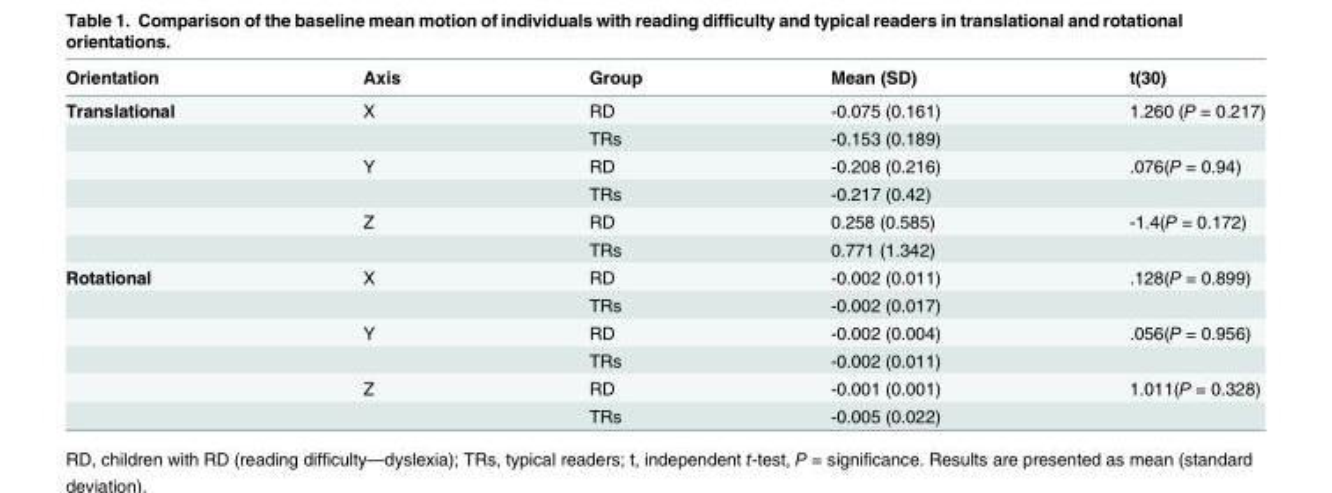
<table><thead><tr><td>Orientation</td><td>Axis</td><td>Group</td><td>Mean (SD)</td><td>t(30)</td></tr></thead><tbody><tr><td rowspan="6">Translational</td><td>X</td><td>RD</td><td>-0.075 (0.161)</td><td>1.260 (P = 0.217)</td></tr><tr><td></td><td>TRs</td><td>-0.153 (0.189)</td><td></td></tr><tr><td>Y</td><td>RD</td><td>-0.208 (0.216)</td><td>.076(P = 0.94)</td></tr><tr><td></td><td>TRs</td><td>-0.217 (0.42)</td><td></td></tr><tr><td>Z</td><td>RD</td><td>0.258 (0.585)</td><td>-1.4(P = 0.172)</td></tr><tr><td></td><td>TRs</td><td>0.771 (1.342)</td><td></td></tr><tr><td rowspan="6">Rotational</td><td>X</td><td>RD</td><td>-0.002 (0.011)</td><td>.128(P = 0.899)</td></tr><tr><td></td><td>TRs</td><td>-0.002 (0.017)</td><td></td></tr><tr><td>Y</td><td>RD</td><td>-0.002 (0.004)</td><td>.056(P = 0.956)</td></tr><tr><td></td><td>TRs</td><td>-0.002 (0.011)</td><td></td></tr><tr><td>Z</td><td>RD</td><td>-0.001 (0.001)</td><td>1.011(P = 0.328)</td></tr><tr><td></td><td>TRs</td><td>-0.005 (0.022)</td><td></td></tr></tbody></table>